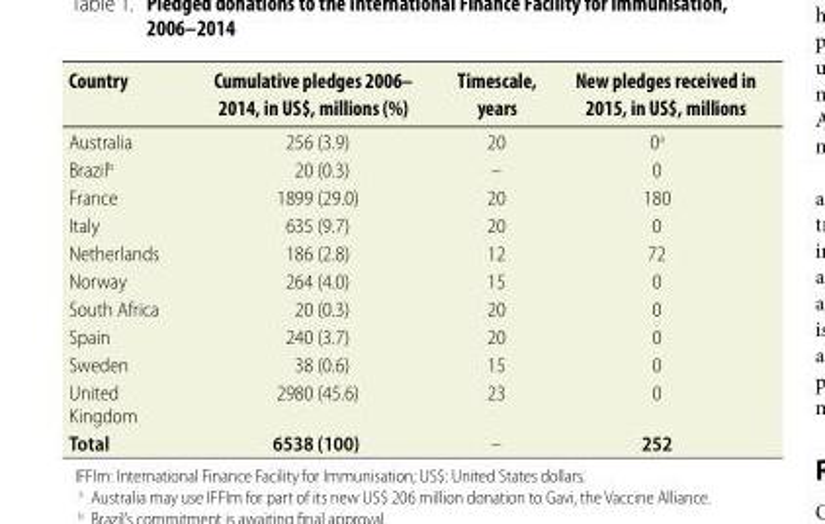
<table><thead><tr><td>Country</td><td>Cumulative pledges 2006– 2014, in US$, millions (%)</td><td>Timescale, years</td><td>New pledges received in 2015, in US$, millions</td></tr></thead><tbody><tr><td>Australia</td><td>256 (3.9)</td><td>20</td><td>0<sup>a</sup></td></tr><tr><td>Brazil<sup>b</sup></td><td>20 (0.3)</td><td>–</td><td>0</td></tr><tr><td>France</td><td>1899 (29.0)</td><td>20</td><td>180</td></tr><tr><td>Italy</td><td>635 (9.7)</td><td>20</td><td>0</td></tr><tr><td>Netherlands</td><td>186 (2.8)</td><td>12</td><td>72</td></tr><tr><td>Norway</td><td>264 (4.0)</td><td>15</td><td>0</td></tr><tr><td>South Africa</td><td>20 (0.3)</td><td>20</td><td>0</td></tr><tr><td>Spain</td><td>240 (3.7)</td><td>20</td><td>0</td></tr><tr><td>Sweden</td><td>38 (0.6)</td><td>15</td><td>0</td></tr><tr><td>United Kingdom</td><td>2980 (45.6)</td><td>23</td><td>0</td></tr><tr><td>Total</td><td>6538 (100)</td><td>–</td><td>252</td></tr></tbody></table>